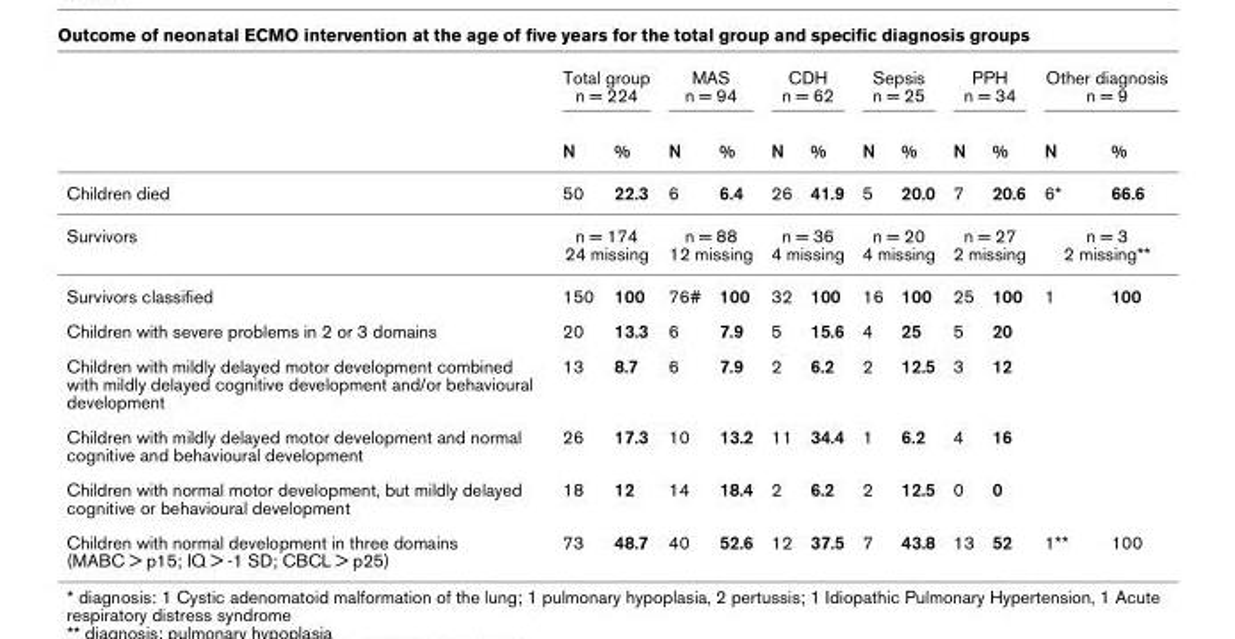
<table><thead><tr><td rowspan="2"></td><td colspan="2">Total group n = 224</td><td colspan="2">MAS n = 94</td><td colspan="2">CDH n = 62</td><td colspan="2">Sepsis n = 25</td><td colspan="2">PPH n = 34</td><td colspan="2">Other diagnosis n = 9</td></tr><tr><td>N</td><td>%</td><td>N</td><td>%</td><td>N</td><td>%</td><td>N</td><td>%</td><td>N</td><td>%</td><td>N</td><td>%</td></tr></thead><tbody><tr><td>Children died</td><td>50</td><td>22.3</td><td>6</td><td>6.4</td><td>26</td><td>41.9</td><td>5</td><td>20.0</td><td>7</td><td>20.6</td><td>6*</td><td>66.6</td></tr><tr><td>Survivors</td><td colspan="2">n = 174 24 missing</td><td colspan="2">n = 88 12 missing</td><td colspan="2">n = 36 4 missing</td><td colspan="2">n = 20 4 missing</td><td colspan="2">n = 27 2 missing</td><td colspan="2">n = 3 2 missing**</td></tr><tr><td>Survivors classified</td><td>150</td><td>100</td><td>76#</td><td>100</td><td>32</td><td>100</td><td>16</td><td>100</td><td>25</td><td>100</td><td>1</td><td>100</td></tr><tr><td>Children with severe problems in 2 or 3 domains</td><td>20</td><td>13.3</td><td>6</td><td>7.9</td><td>5</td><td>15.6</td><td>4</td><td>25</td><td>5</td><td>20</td><td></td><td></td></tr><tr><td>Children with mildly delayed motor development combined with mildly delayed cognitive development and/or behavioural development</td><td>13</td><td>8.7</td><td>6</td><td>7.9</td><td>2</td><td>6.2</td><td>2</td><td>12.5</td><td>3</td><td>12</td><td></td><td></td></tr><tr><td>Children with mildly delayed motor development and normal cognitive and behavioural development</td><td>26</td><td>17.3</td><td>10</td><td>13.2</td><td>11</td><td>34.4</td><td>1</td><td>6.2</td><td>4</td><td>16</td><td></td><td></td></tr><tr><td>Children with normal motor development, but mildly delayed cognitive or behavioural development</td><td>18</td><td>12</td><td>14</td><td>18.4</td><td>2</td><td>6.2</td><td>2</td><td>12.5</td><td>0</td><td>0</td><td></td><td></td></tr><tr><td>Children with normal development in three domains (MABC &gt; p15; IQ &gt; -1 SD; CBCL &gt; p25)</td><td>73</td><td>48.7</td><td>40</td><td>52.6</td><td>12</td><td>37.5</td><td>7</td><td>43.8</td><td>13</td><td>52</td><td>1**</td><td>100</td></tr></tbody></table>